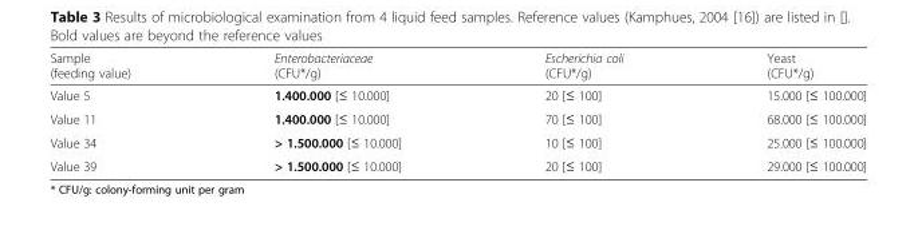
<table><thead><tr><td>Sample (feeding value)</td><td>Enterobacteriaceae (CFU*/g)</td><td>Escherichia coli (CFU*/g)</td><td>Yeast (CFU*/g)</td></tr></thead><tbody><tr><td>Value 5</td><td>1.400.000 [≤ 10.000]</td><td>20 [≤ 100]</td><td>15.000 [≤ 100.000]</td></tr><tr><td>Value 11</td><td>1.400.000 [≤ 10.000]</td><td>70 [≤ 100]</td><td>68.000 [≤ 100.000]</td></tr><tr><td>Value 34</td><td>&gt; 1.500.000 [≤ 10.000]</td><td>10 [≤ 100]</td><td>25.000 [≤ 100.000]</td></tr><tr><td>Value 39</td><td>&gt; 1.500.000 [≤ 10.000]</td><td>20 [≤ 100]</td><td>29.000 [≤ 100.000]</td></tr></tbody></table>